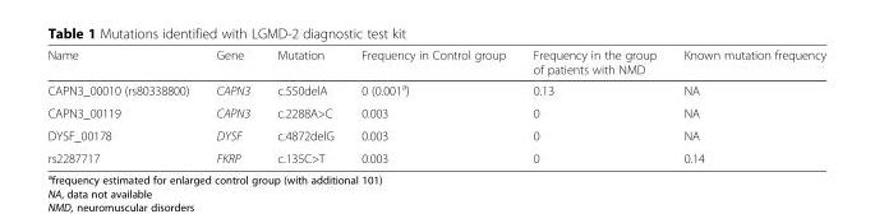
<table><thead><tr><td>Name</td><td>Gene</td><td>Mutation</td><td>Frequency in Control group</td><td>Frequency in the group of patients with NMD</td><td>Known mutation frequency</td></tr></thead><tbody><tr><td>CAPN3_00010 (rs80338800)</td><td>CAPN3</td><td>c.550delA</td><td>0 (0.001<sup>a</sup>)</td><td>0.13</td><td>NA</td></tr><tr><td>CAPN3_00119</td><td>CAPN3</td><td>c.2288A&gt;C</td><td>0.003</td><td>0</td><td>NA</td></tr><tr><td>DYSF_00178</td><td>DYSF</td><td>c.4872delG</td><td>0.003</td><td>0</td><td>NA</td></tr><tr><td>rs2287717</td><td>FKRP</td><td>c.135C&gt;T</td><td>0.003</td><td>0</td><td>0.14</td></tr></tbody></table>